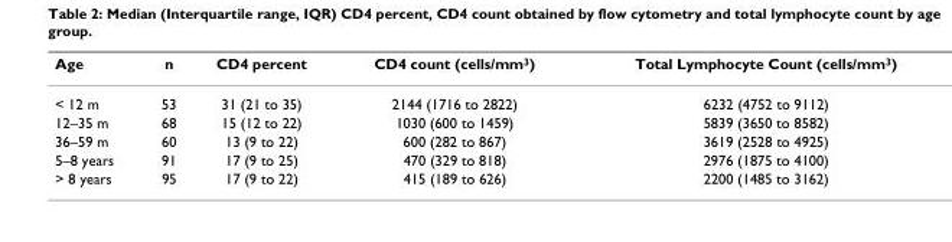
<table><thead><tr><td>Age</td><td>n</td><td>CD4 percent</td><td>CD4 count (cells/mm<sup>3</sup>)</td><td>Total Lymphocyte Count (cells/mm<sup>3</sup>)</td></tr></thead><tbody><tr><td>&lt; 12 m</td><td>53</td><td>31 (21 to 35)</td><td>2144 (1716 to 2822)</td><td>6232 (4752 to 9112)</td></tr><tr><td>12–35 m</td><td>68</td><td>15 (12 to 22)</td><td>1030 (600 to 1459)</td><td>5839 (3650 to 8582)</td></tr><tr><td>36–59 m</td><td>60</td><td>13 (9 to 22)</td><td>600 (282 to 867)</td><td>3619 (2528 to 4925)</td></tr><tr><td>5–8 years</td><td>91</td><td>17 (9 to 25)</td><td>470 (329 to 818)</td><td>2976 (1875 to 4100)</td></tr><tr><td>&gt; 8 years</td><td>95</td><td>17 (9 to 22)</td><td>415 (189 to 626)</td><td>2200 (1485 to 3162)</td></tr></tbody></table>